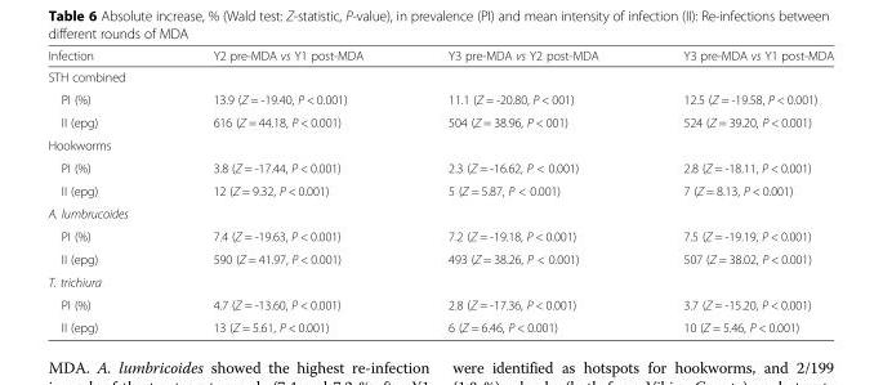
<table><thead><tr><td>Infection</td><td>Y2 pre-MDA vs Y1 post-MDA</td><td>Y3 pre-MDA vs Y2 post-MDA</td><td>Y3 pre-MDA vs Y1 post-MDA</td></tr></thead><tbody><tr><td colspan="4">STH combined</td></tr><tr><td>PI (%)</td><td>13.9 (Z = -19.40, P &lt; 0.001)</td><td>11.1 (Z = -20.80, P &lt; 001)</td><td>12.5 (Z = -19.58, P &lt; 0.001)</td></tr><tr><td>II (epg)</td><td>616 (Z = 44.18, P &lt; 0.001)</td><td>504 (Z = 38.96, P &lt; 001)</td><td>524 (Z = 39.20, P &lt; 0.001)</td></tr><tr><td colspan="4">Hookworms</td></tr><tr><td>PI (%)</td><td>3.8 (Z = -17.44, P &lt; 0.001)</td><td>2.3 (Z = -16.62, P &lt; 0.001)</td><td>2.8 (Z = -18.11, P &lt; 0.001)</td></tr><tr><td>II (epg)</td><td>12 (Z = 9.32, P &lt; 0.001)</td><td>5 (Z = 5.87, P &lt; 0.001)</td><td>7 (Z = 8.13, P &lt; 0.001)</td></tr><tr><td colspan="4">A. lumbrucoides</td></tr><tr><td>PI (%)</td><td>7.4 (Z = -19.63, P &lt; 0.001)</td><td>7.2 (Z = -19.18, P &lt; 0.001)</td><td>7.5 (Z = -19.19, P &lt; 0.001)</td></tr><tr><td>II (epg)</td><td>590 (Z = 41.97, P &lt; 0.001)</td><td>493 (Z = 38.26, P &lt; 0.001)</td><td>507 (Z = 38.02, P &lt; 0.001)</td></tr><tr><td colspan="4">T. trichiura</td></tr><tr><td>PI (%)</td><td>4.7 (Z = -13.60, P &lt; 0.001)</td><td>2.8 (Z = -17.36, P &lt; 0.001)</td><td>3.7 (Z = -15.20, P &lt; 0.001)</td></tr><tr><td>II (epg)</td><td>13 (Z = 5.61, P &lt; 0.001)</td><td>6 (Z = 6.46, P &lt; 0.001)</td><td>10 (Z = 5.46, P &lt; 0.001)</td></tr></tbody></table>